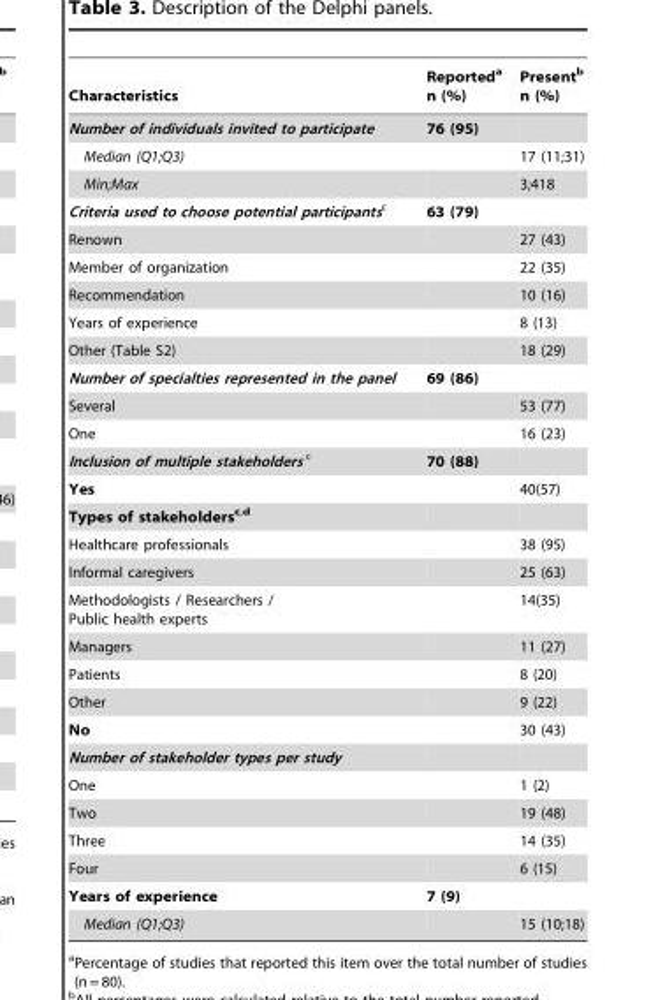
<table><thead><tr><td>Characteristics</td><td>Reported<sup>a</sup> n (%)</td><td>Present<sup>b</sup> n (%)</td></tr></thead><tbody><tr><td>Number of individuals invited to participate</td><td>76 (95)</td><td></td></tr><tr><td>Median (Q1;Q3)</td><td></td><td>17 (11;31)</td></tr><tr><td>Min;Max</td><td></td><td>3;418</td></tr><tr><td>Criteria used to choose potential participantsc</td><td>63 (79)</td><td></td></tr><tr><td>Renown</td><td></td><td>27 (43)</td></tr><tr><td>Member of organization</td><td></td><td>22 (35)</td></tr><tr><td>Recommendation</td><td></td><td>10 (16)</td></tr><tr><td>Years of experience</td><td></td><td>8 (13)</td></tr><tr><td>Other (Table S2)</td><td></td><td>18 (29)</td></tr><tr><td>Number of specialties represented in the panel</td><td>69 (86)</td><td></td></tr><tr><td>Several</td><td></td><td>53 (77)</td></tr><tr><td>One</td><td></td><td>16 (23)</td></tr><tr><td>Inclusion of multiple stakeholders c</td><td>70 (88)</td><td></td></tr><tr><td>Yes</td><td></td><td>40(57)</td></tr><tr><td colspan="3">Types of stakeholdersc<sup>,</sup>d</td></tr><tr><td>Healthcare professionals</td><td></td><td>38 (95)</td></tr><tr><td>Informal caregivers</td><td></td><td>25 (63)</td></tr><tr><td>Methodologists / Researchers / Public health experts</td><td></td><td>14(35)</td></tr><tr><td>Managers</td><td></td><td>11 (27)</td></tr><tr><td>Patients</td><td></td><td>8 (20)</td></tr><tr><td>Other</td><td></td><td>9 (22)</td></tr><tr><td>No</td><td></td><td>30 (43)</td></tr><tr><td colspan="3">Number of stakeholder types per study</td></tr><tr><td>One</td><td></td><td>1 (2)</td></tr><tr><td>Two</td><td></td><td>19 (48)</td></tr><tr><td>Three</td><td></td><td>14 (35)</td></tr><tr><td>Four</td><td></td><td>6 (15)</td></tr><tr><td>Years of experience</td><td>7 (9)</td><td></td></tr><tr><td>Median (Q1;Q3)</td><td></td><td>15 (10;18)</td></tr></tbody></table>